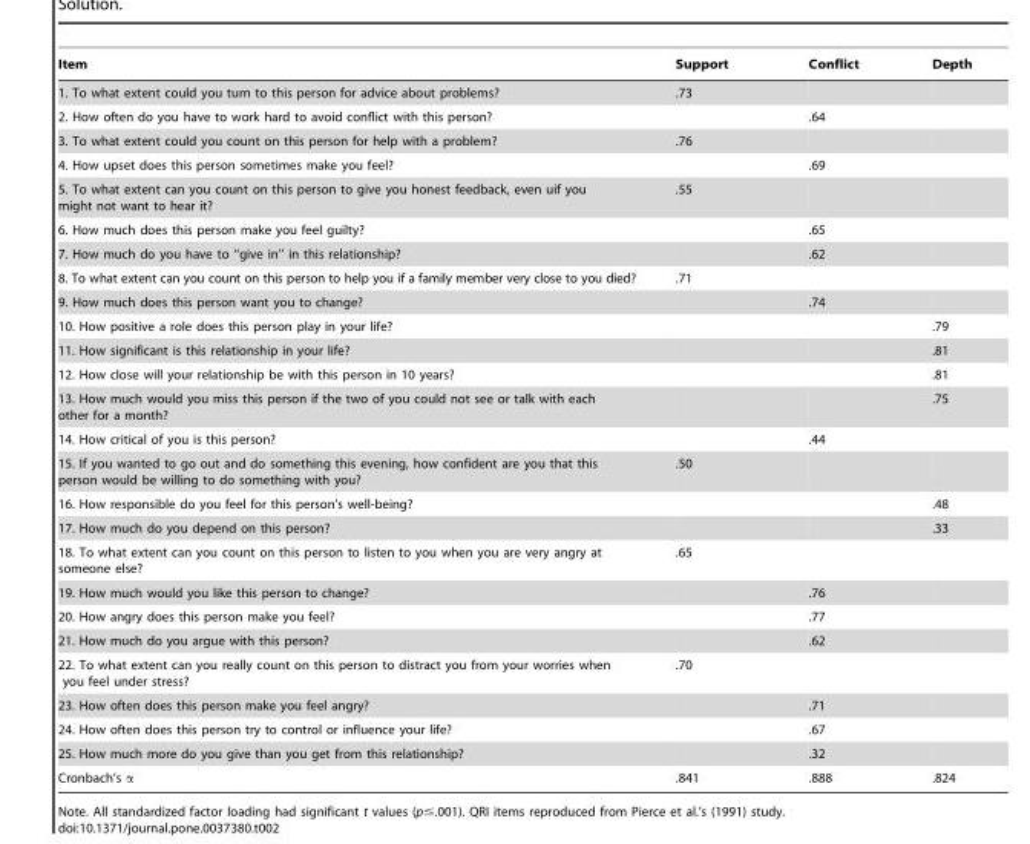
<table><thead><tr><td>Item</td><td>Support</td><td>Conflict</td><td>Depth</td></tr></thead><tbody><tr><td>1. To what extent could you turn to this person for advice about problems?</td><td>.73</td><td></td><td></td></tr><tr><td>2. How often do you have to work hard to avoid conflict with this person?</td><td></td><td>.64</td><td></td></tr><tr><td>3. To what extent could you count on this person for help with a problem?</td><td>.76</td><td></td><td></td></tr><tr><td>4. How upset does this person sometimes make you feel?</td><td></td><td>.69</td><td></td></tr><tr><td>5. To what extent can you count on this person to give you honest feedback, even uif you might not want to hear it?</td><td>.55</td><td></td><td></td></tr><tr><td>6. How much does this person make you feel guilty?</td><td></td><td>.65</td><td></td></tr><tr><td>7. How much do you have to ‘‘give in’’ in this relationship?</td><td></td><td>.62</td><td></td></tr><tr><td>8. To what extent can you count on this person to help you if a family member very close to you died?</td><td>.71</td><td></td><td></td></tr><tr><td>9. How much does this person want you to change?</td><td></td><td>.74</td><td></td></tr><tr><td>10. How positive a role does this person play in your life?</td><td></td><td></td><td>.79</td></tr><tr><td>11. How significant is this relationship in your life?</td><td></td><td></td><td>.81</td></tr><tr><td>12. How close will your relationship be with this person in 10 years?</td><td></td><td></td><td>.81</td></tr><tr><td>13. How much would you miss this person if the two of you could not see or talk with each other for a month?</td><td></td><td></td><td>.75</td></tr><tr><td>14. How critical of you is this person?</td><td></td><td>.44</td><td></td></tr><tr><td>15. If you wanted to go out and do something this evening, how confident are you that this person would be willing to do something with you?</td><td>.50</td><td></td><td></td></tr><tr><td>16. How responsible do you feel for this person’s well-being?</td><td></td><td></td><td>.48</td></tr><tr><td>17. How much do you depend on this person?</td><td></td><td></td><td>.33</td></tr><tr><td>18. To what extent can you count on this person to listen to you when you are very angry at someone else?</td><td>.65</td><td></td><td></td></tr><tr><td>19. How much would you like this person to change?</td><td></td><td>.76</td><td></td></tr><tr><td>20. How angry does this person make you feel?</td><td></td><td>.77</td><td></td></tr><tr><td>21. How much do you argue with this person?</td><td></td><td>.62</td><td></td></tr><tr><td>22. To what extent can you really count on this person to distract you from your worries when you feel under stress?</td><td>.70</td><td></td><td></td></tr><tr><td>23. How often does this person make you feel angry?</td><td></td><td>.71</td><td></td></tr><tr><td>24. How often does this person try to control or influence your life?</td><td></td><td>.67</td><td></td></tr><tr><td>25. How much more do you give than you get from this relationship?</td><td></td><td>.32</td><td></td></tr><tr><td>Cronbach’s α</td><td>.841</td><td>.888</td><td>.824</td></tr></tbody></table>